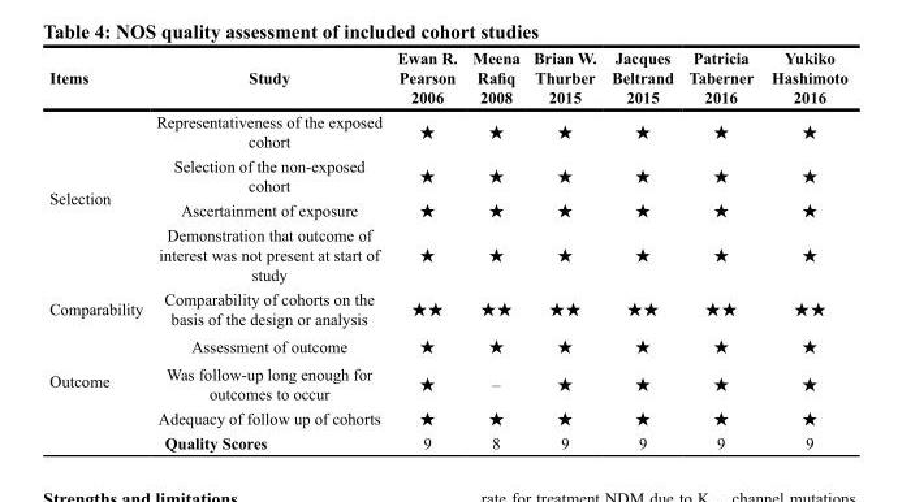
<table><thead><tr><td>Items</td><td>Study</td><td>Ewan R. Pearson 2006</td><td>Meena Rafiq 2008</td><td>Brian W. Thurber 2015</td><td>Jacques Beltrand 2015</td><td>Patricia Taberner 2016</td><td>Yukiko Hashimoto 2016</td></tr></thead><tbody><tr><td rowspan="4">Selection</td><td>Representativeness of the exposed cohort</td><td>★</td><td>★</td><td>★</td><td>★</td><td>★</td><td>★</td></tr><tr><td>Selection of the non-exposed cohort</td><td>★</td><td>★</td><td>★</td><td>★</td><td>★</td><td>★</td></tr><tr><td>Ascertainment of exposure</td><td>★</td><td>★</td><td>★</td><td>★</td><td>★</td><td>★</td></tr><tr><td>Demonstration that outcome of interest was not present at start of study</td><td>★</td><td>★</td><td>★</td><td>★</td><td>★</td><td>★</td></tr><tr><td>Comparability</td><td>Comparability of cohorts on the basis of the design or analysis</td><td>★★</td><td>★★</td><td>★★</td><td>★★</td><td>★★</td><td>★★</td></tr><tr><td rowspan="3">Outcome</td><td>Assessment of outcome</td><td>★</td><td>★</td><td>★</td><td>★</td><td>★</td><td>★</td></tr><tr><td>Was follow-up long enough for outcomes to occur</td><td>★</td><td>–</td><td>★</td><td>★</td><td>★</td><td>★</td></tr><tr><td>Adequacy of follow up of cohorts</td><td>★</td><td>★</td><td>★</td><td>★</td><td>★</td><td>★</td></tr><tr><td colspan="2">Quality Scores</td><td>9</td><td>8</td><td>9</td><td>9</td><td>9</td><td>9</td></tr></tbody></table>